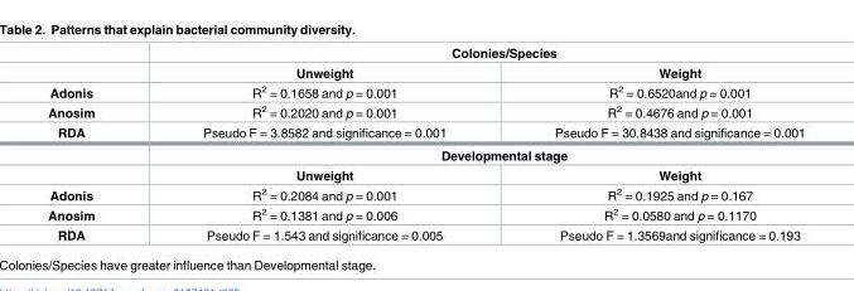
<table><thead><tr><td rowspan="2"></td><td colspan="2">Colonies/Species</td></tr><tr><td>Unweight</td><td>Weight</td></tr></thead><tbody><tr><td>Adonis</td><td>R<sup>2</sup> = 0.1658 and p = 0.001</td><td>R<sup>2</sup> = 0.6520and p = 0.001</td></tr><tr><td>Anosim</td><td>R<sup>2</sup> = 0.2020 and p = 0.001</td><td>R<sup>2</sup> = 0.4676 and p = 0.001</td></tr><tr><td rowspan="3">RDA</td><td>Pseudo F = 3.8582 and significance = 0.001</td><td>Pseudo F = 30.8438 and significance = 0.001</td></tr><tr><td colspan="2">Developmental stage</td></tr><tr><td>Unweight</td><td>Weight</td></tr><tr><td>Adonis</td><td>R<sup>2</sup> = 0.2084 and p = 0.001</td><td>R<sup>2</sup> = 0.1925 and p = 0.167</td></tr><tr><td>Anosim</td><td>R<sup>2</sup> = 0.1381 and p = 0.006</td><td>R<sup>2</sup> = 0.0580 and p = 0.1170</td></tr><tr><td>RDA</td><td>Pseudo F = 1.543 and significance = 0.005</td><td>Pseudo F = 1.3569and significance = 0.193</td></tr></tbody></table>